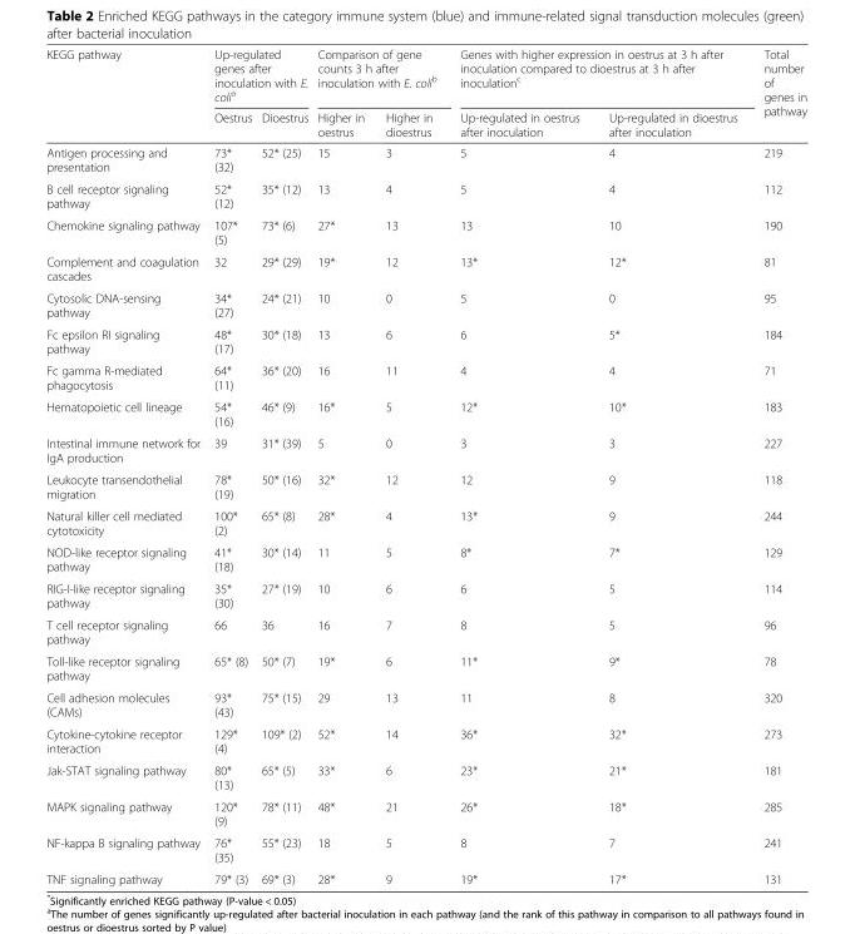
<table><thead><tr><td rowspan="2">KEGG pathway</td><td colspan="2">Up-regulated genes after inoculation with E. coli<sup>a</sup></td><td colspan="2">Comparison of gene counts 3 h after inoculation with E. coli<sup>b</sup></td><td colspan="2">Genes with higher expression in oestrus at 3 h after inoculation compared to dioestrus at 3 h after inoculation<sup>c</sup></td><td rowspan="2">Total number of genes in pathway</td></tr><tr><td>Oestrus</td><td>Dioestrus</td><td>Higher in oestrus</td><td>Higher in dioestrus</td><td>Up-regulated in oestrus after inoculation</td><td>Up-regulated in dioestrus after inoculation</td></tr></thead><tbody><tr><td>Antigen processing and presentation</td><td>73* (32)</td><td>52* (25)</td><td>15</td><td>3</td><td>5</td><td>4</td><td>219</td></tr><tr><td>B cell receptor signaling pathway</td><td>52* (12)</td><td>35* (12)</td><td>13</td><td>4</td><td>5</td><td>4</td><td>112</td></tr><tr><td>Chemokine signaling pathway</td><td>107* (5)</td><td>73* (6)</td><td>27*</td><td>13</td><td>13</td><td>10</td><td>190</td></tr><tr><td>Complement and coagulation cascades</td><td>32</td><td>29* (29)</td><td>19*</td><td>12</td><td>13*</td><td>12*</td><td>81</td></tr><tr><td>Cytosolic DNA-sensing pathway</td><td>34* (27)</td><td>24* (21)</td><td>10</td><td>0</td><td>5</td><td>0</td><td>95</td></tr><tr><td>Fc epsilon RI signaling pathway</td><td>48* (17)</td><td>30* (18)</td><td>13</td><td>6</td><td>6</td><td>5*</td><td>184</td></tr><tr><td>Fc gamma R-mediated phagocytosis</td><td>64* (11)</td><td>36* (20)</td><td>16</td><td>11</td><td>4</td><td>4</td><td>71</td></tr><tr><td>Hematopoietic cell lineage</td><td>54* (16)</td><td>46* (9)</td><td>16*</td><td>5</td><td>12*</td><td>10*</td><td>183</td></tr><tr><td>Intestinal immune network for IgA production</td><td>39</td><td>31* (39)</td><td>5</td><td>0</td><td>3</td><td>3</td><td>227</td></tr><tr><td>Leukocyte transendothelial migration</td><td>78* (19)</td><td>50* (16)</td><td>32*</td><td>12</td><td>12</td><td>9</td><td>118</td></tr><tr><td>Natural killer cell mediated cytotoxicity</td><td>100* (2)</td><td>65* (8)</td><td>28*</td><td>4</td><td>13*</td><td>9</td><td>244</td></tr><tr><td>NOD-like receptor signaling pathway</td><td>41* (18)</td><td>30* (14)</td><td>11</td><td>5</td><td>8*</td><td>7*</td><td>129</td></tr><tr><td>RIG-I-like receptor signaling pathway</td><td>35* (30)</td><td>27* (19)</td><td>10</td><td>6</td><td>6</td><td>5</td><td>114</td></tr><tr><td>T cell receptor signaling pathway</td><td>66</td><td>36</td><td>16</td><td>7</td><td>8</td><td>5</td><td>96</td></tr><tr><td>Toll-like receptor signaling pathway</td><td>65* (8)</td><td>50* (7)</td><td>19*</td><td>6</td><td>11*</td><td>9*</td><td>78</td></tr><tr><td>Cell adhesion molecules (CAMs)</td><td>93* (43)</td><td>75* (15)</td><td>29</td><td>13</td><td>11</td><td>8</td><td>320</td></tr><tr><td>Cytokine-cytokine receptor interaction</td><td>129* (4)</td><td>109* (2)</td><td>52*</td><td>14</td><td>36*</td><td>32*</td><td>273</td></tr><tr><td>Jak-STAT signaling pathway</td><td>80* (13)</td><td>65* (5)</td><td>33*</td><td>6</td><td>23*</td><td>21*</td><td>181</td></tr><tr><td>MAPK signaling pathway</td><td>120* (9)</td><td>78* (11)</td><td>48*</td><td>21</td><td>26*</td><td>18*</td><td>285</td></tr><tr><td>NF-kappa B signaling pathway</td><td>76* (35)</td><td>55* (23)</td><td>18</td><td>5</td><td>8</td><td>7</td><td>241</td></tr><tr><td>TNF signaling pathway</td><td>79* (3)</td><td>69* (3)</td><td>28*</td><td>9</td><td>19*</td><td>17*</td><td>131</td></tr></tbody></table>